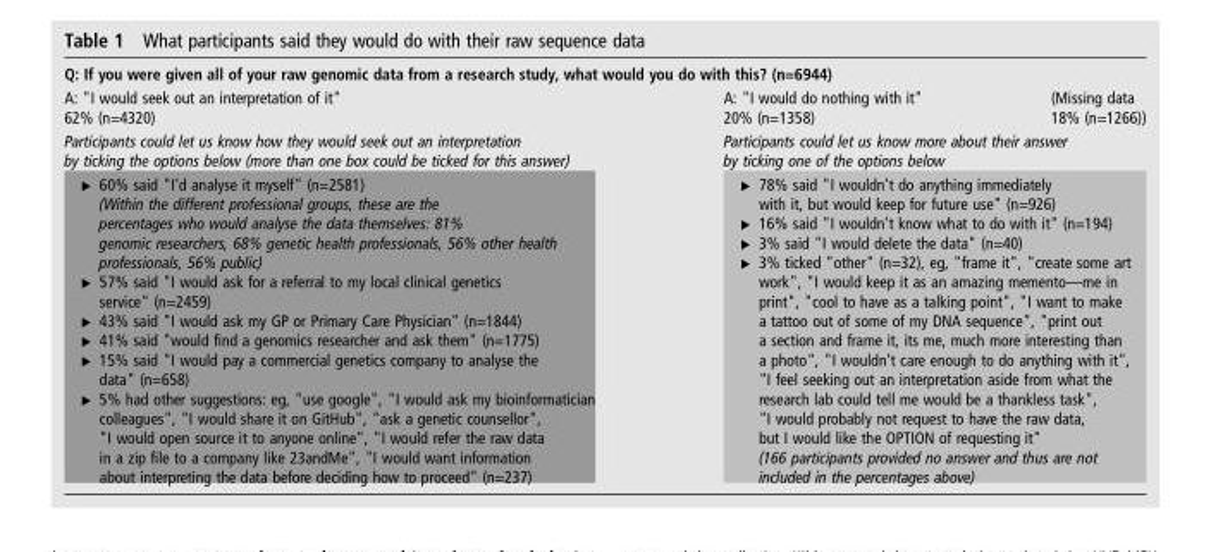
<table><tbody><tr><td colspan="3">Q: If you were given all of your raw genomic data from a research study, what would you do with this? (n=6944)</td></tr><tr><td>A: &quot;I would seek out an interpretation of it&quot; 62% (n=4320)</td><td>A: &quot;I would do nothing with it&quot; 20% (n=1358)</td><td>(Missing data 18% (n=1266))</td></tr><tr><td>Participants could let us know how they would seek out an interpretation by ticking the options below (more than one box could be ticked for this answer)</td><td colspan="2">Participants could let us know more about their answer by ticking one of the options below</td></tr><tr><td>▸ 60% said &quot;I’d analyse it myself&quot; (n=2581) (Within the different professional groups, these are the percentages who would analyse the data themselves: 81% genomic researchers, 68% genetic health professionals, 56% other health professionals, 56% public) ▸ 57% said &quot;I would ask for a referral to my local clinical genetics service&quot; (n=2459) ▸ 43% said &quot;I would ask my GP or Primary Care Physician&quot; (n=1844) ▸ 41% said &quot;would find a genomics researcher and ask them&quot; (n=1775) ▸ 15% said &quot;I would pay a commercial genetics company to analyse the data&quot; (n=658) ▸ 5% had other suggestions: eg, &quot;use google&quot;, &quot;I would ask my bioinformatician colleagues&quot;, &quot;I would share it on GitHub&quot;, &quot;ask a genetic counsellor&quot;, &quot;I would open source it to anyone online&quot;, &quot;I would refer the raw data in a zip file to a company like 23andMe&quot;, &quot;I would want information about interpreting the data before deciding how to proceed&quot; (n=237)</td><td colspan="2">▸ 78% said &quot;I wouldn’t do anything immediately with it, but would keep for future use&quot; (n=926) ▸ 16% said &quot;I wouldn’t know what to do with it&quot; (n=194) ▸ 3% said &quot;I would delete the data&quot; (n=40) ▸ 3% ticked &quot;other&quot; (n=32), eg, &quot;frame it&quot;, &quot;create some art work&quot;, &quot;I would keep it as an amazing memento—me in print&quot;, &quot;cool to have as a talking point&quot;, &quot;I want to make a tattoo out of some of my DNA sequence&quot;, &quot;print out a section and frame it, its me, much more interesting than a photo&quot;, &quot;I wouldn’t care enough to do anything with it&quot;, &quot;I feel seeking out an interpretation aside from what the research lab could tell me would be a thankless task&quot;, &quot;I would probably not request to have the raw data, but I would like the OPTION of requesting it&quot; (166 participants provided no answer and thus are not included in the percentages above)</td></tr></tbody></table>